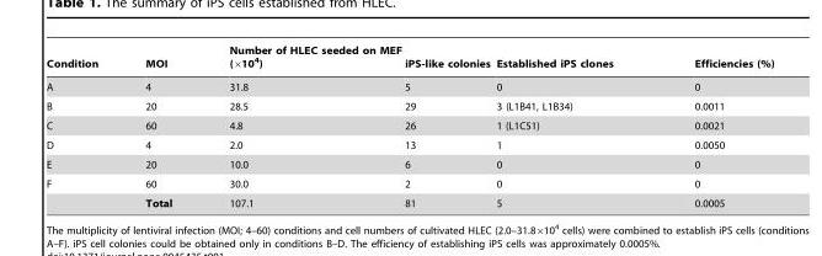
<table><thead><tr><td>Condition</td><td>MOI</td><td>Number of HLEC seeded on MEF (×10<sup>4</sup>)</td><td>iPS-like colonies</td><td>Established iPS clones</td><td>Efficiencies (%)</td></tr></thead><tbody><tr><td>A</td><td>4</td><td>31.8</td><td>5</td><td>0</td><td>0</td></tr><tr><td>B</td><td>20</td><td>28.5</td><td>29</td><td>3 (L1B41, L1B34)</td><td>0.0011</td></tr><tr><td>C</td><td>60</td><td>4.8</td><td>26</td><td>1 (L1C51)</td><td>0.0021</td></tr><tr><td>D</td><td>4</td><td>2.0</td><td>13</td><td>1</td><td>0.0050</td></tr><tr><td>E</td><td>20</td><td>10.0</td><td>6</td><td>0</td><td>0</td></tr><tr><td rowspan="2">F</td><td>60</td><td>30.0</td><td>2</td><td>0</td><td>0</td></tr><tr><td>Total</td><td>107.1</td><td>81</td><td>5</td><td>0.0005</td></tr></tbody></table>